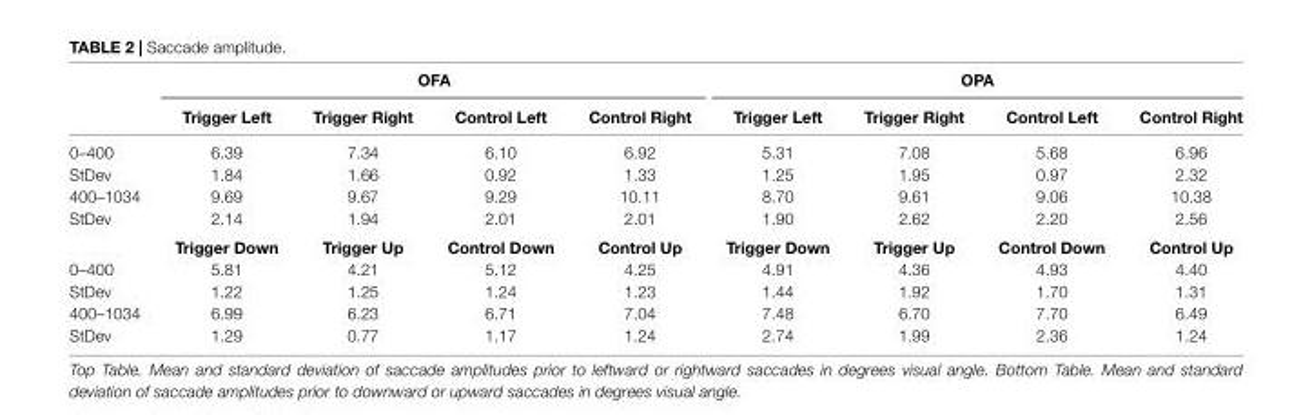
<table><thead><tr><td rowspan="2"></td><td colspan="4">OFA</td><td colspan="4">OPA</td></tr><tr><td>Trigger Left</td><td>Trigger Right</td><td>Control Left</td><td>Control Right</td><td>Trigger Left</td><td>Trigger Right</td><td>Control Left</td><td>Control Right</td></tr></thead><tbody><tr><td>0–400</td><td>6.39</td><td>7.34</td><td>6.10</td><td>6.92</td><td>5.31</td><td>7.08</td><td>5.68</td><td>6.96</td></tr><tr><td>StDev</td><td>1.84</td><td>1.66</td><td>0.92</td><td>1.33</td><td>1.25</td><td>1.95</td><td>0.97</td><td>2.32</td></tr><tr><td>400–1034</td><td>9.69</td><td>9.67</td><td>9.29</td><td>10.11</td><td>8.70</td><td>9.61</td><td>9.06</td><td>10.38</td></tr><tr><td rowspan="2">StDev</td><td>2.14</td><td>1.94</td><td>2.01</td><td>2.01</td><td>1.90</td><td>2.62</td><td>2.20</td><td>2.56</td></tr><tr><td>Trigger Down</td><td>Trigger Up</td><td>Control Down</td><td>Control Up</td><td>Trigger Down</td><td>Trigger Up</td><td>Control Down</td><td>Control Up</td></tr><tr><td>0–400</td><td>5.81</td><td>4.21</td><td>5.12</td><td>4.25</td><td>4.91</td><td>4.36</td><td>4.93</td><td>4.40</td></tr><tr><td>StDev</td><td>1.22</td><td>1.25</td><td>1.24</td><td>1.23</td><td>1.44</td><td>1.92</td><td>1.70</td><td>1.31</td></tr><tr><td>400–1034</td><td>6.99</td><td>6.23</td><td>6.71</td><td>7.04</td><td>7.48</td><td>6.70</td><td>7.70</td><td>6.49</td></tr><tr><td>StDev</td><td>1.29</td><td>0.77</td><td>1.17</td><td>1.24</td><td>2.74</td><td>1.99</td><td>2.36</td><td>1.24</td></tr></tbody></table>